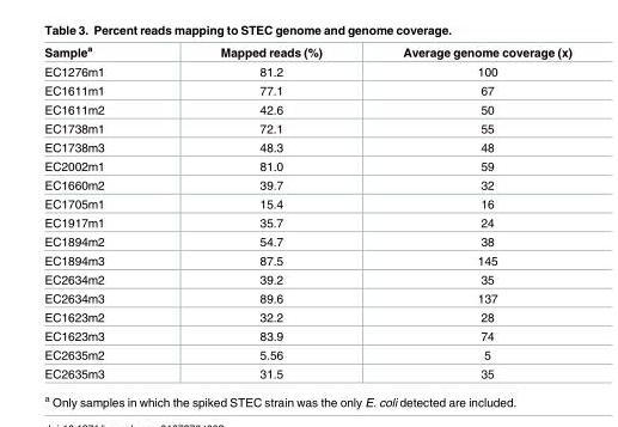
<table><thead><tr><td>Sample<sup>a</sup></td><td>Mapped reads (%)</td><td>Average genome coverage (x)</td></tr></thead><tbody><tr><td>EC1276m1</td><td>81.2</td><td>100</td></tr><tr><td>EC1611m1</td><td>77.1</td><td>67</td></tr><tr><td>EC1611m2</td><td>42.6</td><td>50</td></tr><tr><td>EC1738m1</td><td>72.1</td><td>55</td></tr><tr><td>EC1738m3</td><td>48.3</td><td>48</td></tr><tr><td>EC2002m1</td><td>81.0</td><td>59</td></tr><tr><td>EC1660m2</td><td>39.7</td><td>32</td></tr><tr><td>EC1705m1</td><td>15.4</td><td>16</td></tr><tr><td>EC1917m1</td><td>35.7</td><td>24</td></tr><tr><td>EC1894m2</td><td>54.7</td><td>38</td></tr><tr><td>EC1894m3</td><td>87.5</td><td>145</td></tr><tr><td>EC2634m2</td><td>39.2</td><td>35</td></tr><tr><td>EC2634m3</td><td>89.6</td><td>137</td></tr><tr><td>EC1623m2</td><td>32.2</td><td>28</td></tr><tr><td>EC1623m3</td><td>83.9</td><td>74</td></tr><tr><td>EC2635m2</td><td>5.56</td><td>5</td></tr><tr><td>EC2635m3</td><td>31.5</td><td>35</td></tr></tbody></table>